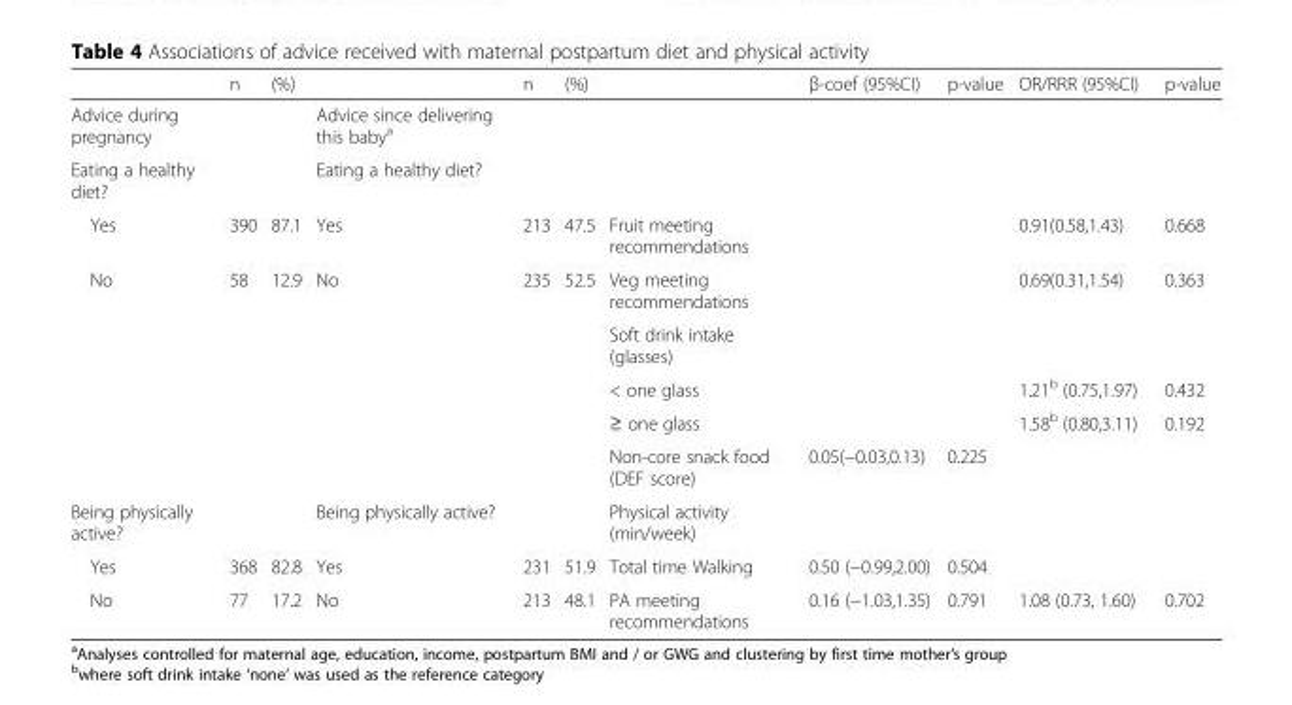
<table><thead><tr><td></td><td>n</td><td>(%)</td><td></td><td>n</td><td>(%)</td><td></td><td>β-coef (95%CI)</td><td>p-value</td><td>OR/RRR (95%CI)</td><td>p-value</td></tr></thead><tbody><tr><td>Advice during pregnancy</td><td></td><td></td><td>Advice since delivering this baby<sup>a</sup></td><td></td><td></td><td></td><td></td><td></td><td></td><td></td></tr><tr><td>Eating a healthy diet?</td><td></td><td></td><td>Eating a healthy diet?</td><td></td><td></td><td></td><td></td><td></td><td></td><td></td></tr><tr><td>Yes</td><td>390</td><td>87.1</td><td>Yes</td><td>213</td><td>47.5</td><td>Fruit meeting recommendations</td><td></td><td></td><td>0.91(0.58,1.43)</td><td>0.668</td></tr><tr><td rowspan="5">No</td><td>58</td><td>12.9</td><td>No</td><td>235</td><td>52.5</td><td>Veg meeting recommendations</td><td></td><td></td><td>0.69(0.31,1.54)</td><td>0.363</td></tr><tr><td></td><td></td><td></td><td></td><td></td><td>Soft drink intake (glasses)</td><td></td><td></td><td></td><td></td></tr><tr><td></td><td></td><td></td><td></td><td></td><td>&lt; one glass</td><td></td><td></td><td>1.21<sup>b</sup> (0.75,1.97)</td><td>0.432</td></tr><tr><td></td><td></td><td></td><td></td><td></td><td>≥ one glass</td><td></td><td></td><td>1.58<sup>b</sup> (0.80,3.11)</td><td>0.192</td></tr><tr><td></td><td></td><td></td><td></td><td></td><td>Non-core snack food (DEF score)</td><td>0.05(−0.03,0.13)</td><td>0.225</td><td></td><td></td></tr><tr><td>Being physically active?</td><td></td><td></td><td>Being physically active?</td><td></td><td></td><td>Physical activity (min/week)</td><td></td><td></td><td></td><td></td></tr><tr><td>Yes</td><td>368</td><td>82.8</td><td>Yes</td><td>231</td><td>51.9</td><td>Total time Walking</td><td>0.50 (−0.99,2.00)</td><td>0.504</td><td></td><td></td></tr><tr><td>No</td><td>77</td><td>17.2</td><td>No</td><td>213</td><td>48.1</td><td>PA meeting recommendations</td><td>0.16 (−1.03,1.35)</td><td>0.791</td><td>1.08 (0.73, 1.60)</td><td>0.702</td></tr></tbody></table>